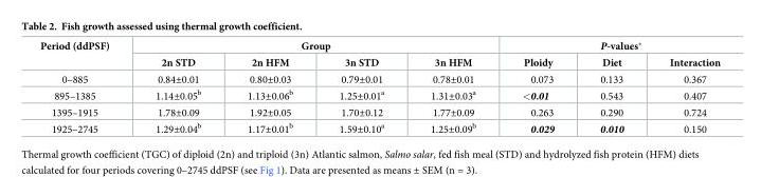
<table><thead><tr><td rowspan="2">Period (ddPSF)</td><td colspan="4">Group</td><td colspan="3">P-values*</td></tr><tr><td>2n STD</td><td>2n HFM</td><td>3n STD</td><td>3n HFM</td><td>Ploidy</td><td>Diet</td><td>Interaction</td></tr></thead><tbody><tr><td>0–885</td><td>0.84±0.01</td><td>0.80±0.03</td><td>0.79±0.01</td><td>0.78±0.01</td><td>0.073</td><td>0.133</td><td>0.367</td></tr><tr><td>895–1385</td><td>1.14±0.05<sup>b</sup></td><td>1.13±0.06<sup>b</sup></td><td>1.25±0.01<sup>a</sup></td><td>1.31±0.03<sup>a</sup></td><td>&lt;0.01</td><td>0.543</td><td>0.407</td></tr><tr><td>1395–1915</td><td>1.78±0.09</td><td>1.92±0.05</td><td>1.70±0.12</td><td>1.77±0.09</td><td>0.263</td><td>0.290</td><td>0.724</td></tr><tr><td>1925–2745</td><td>1.29±0.04<sup>b</sup></td><td>1.17±0.01<sup>b</sup></td><td>1.59±0.10<sup>a</sup></td><td>1.25±0.09<sup>b</sup></td><td>0.029</td><td>0.010</td><td>0.150</td></tr></tbody></table>